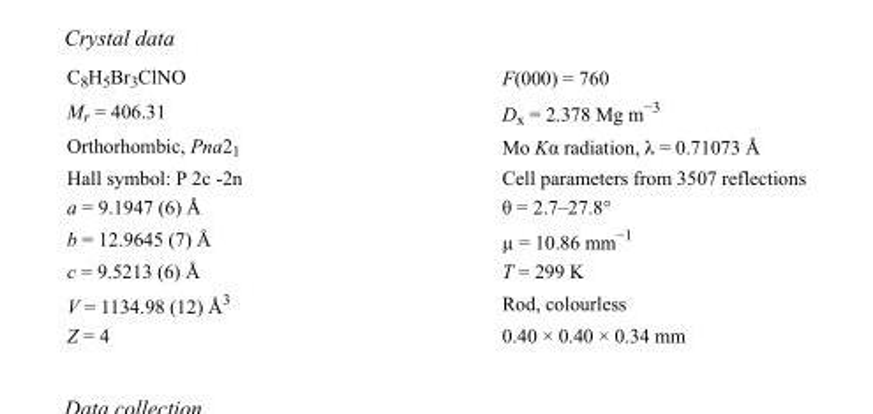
<table><tbody><tr><td>C<sub>8</sub>H<sub>5</sub>Br<sub>3</sub>ClNO</td><td>F(000) = 760</td></tr><tr><td>M<sub>r</sub> = 406.31</td><td>D<sub>x</sub> = 2.378 Mg m<sup>−3</sup></td></tr><tr><td>Orthorhombic, Pna2<sub>1</sub></td><td>Mo Kα radiation, λ = 0.71073 Å</td></tr><tr><td>Hall symbol: P 2c -2n</td><td>Cell parameters from 3507 reflections</td></tr><tr><td>a = 9.1947 (6) Å</td><td>θ = 2.7–27.8°</td></tr><tr><td>b = 12.9645 (7) Å</td><td>µ = 10.86 mm<sup>−1</sup></td></tr><tr><td>c = 9.5213 (6) Å</td><td>T = 299 K</td></tr><tr><td>V = 1134.98 (12) Å<sup>3</sup></td><td>Rod, colourless</td></tr><tr><td>Z = 4</td><td>0.40 × 0.40 × 0.34 mm</td></tr></tbody></table>